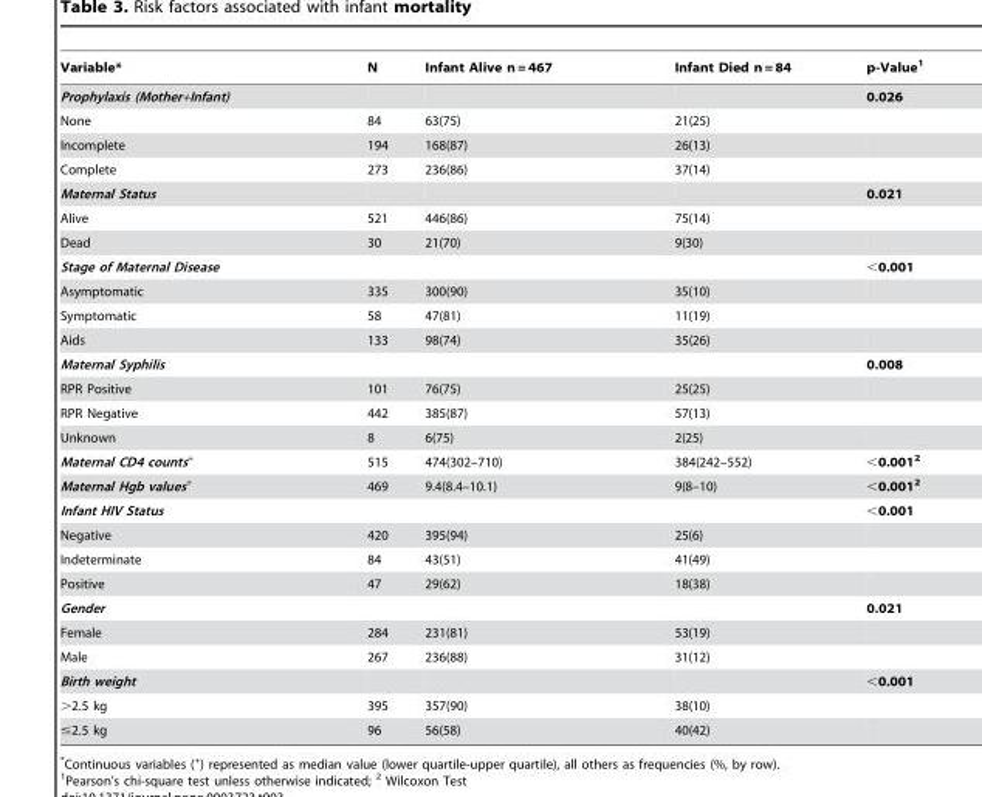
<table><thead><tr><td>Variable*</td><td>N</td><td>Infant Alive n = 467</td><td>Infant Died n = 84</td><td>p-Value<sup>1</sup></td></tr></thead><tbody><tr><td>Prophylaxis (Mother+Infant)</td><td></td><td></td><td></td><td>0.026</td></tr><tr><td>None</td><td>84</td><td>63(75)</td><td>21(25)</td><td></td></tr><tr><td>Incomplete</td><td>194</td><td>168(87)</td><td>26(13)</td><td></td></tr><tr><td>Complete</td><td>273</td><td>236(86)</td><td>37(14)</td><td></td></tr><tr><td>Maternal Status</td><td></td><td></td><td></td><td>0.021</td></tr><tr><td>Alive</td><td>521</td><td>446(86)</td><td>75(14)</td><td></td></tr><tr><td>Dead</td><td>30</td><td>21(70)</td><td>9(30)</td><td></td></tr><tr><td>Stage of Maternal Disease</td><td></td><td></td><td></td><td>&lt;0.001</td></tr><tr><td>Asymptomatic</td><td>335</td><td>300(90)</td><td>35(10)</td><td></td></tr><tr><td>Symptomatic</td><td>58</td><td>47(81)</td><td>11(19)</td><td></td></tr><tr><td>Aids</td><td>133</td><td>98(74)</td><td>35(26)</td><td></td></tr><tr><td>Maternal Syphilis</td><td></td><td></td><td></td><td>0.008</td></tr><tr><td>RPR Positive</td><td>101</td><td>76(75)</td><td>25(25)</td><td></td></tr><tr><td>RPR Negative</td><td>442</td><td>385(87)</td><td>57(13)</td><td></td></tr><tr><td>Unknown</td><td>8</td><td>6(75)</td><td>2(25)</td><td></td></tr><tr><td>Maternal CD4 counts<sup>+</sup></td><td>515</td><td>474(302–710)</td><td>384(242–552)</td><td>&lt;0.0012</td></tr><tr><td>Maternal Hgb values<sup>+</sup></td><td>469</td><td>9.4(8.4–10.1)</td><td>9(8–10)</td><td>&lt;0.0012</td></tr><tr><td>Infant HIV Status</td><td></td><td></td><td></td><td>&lt;0.001</td></tr><tr><td>Negative</td><td>420</td><td>395(94)</td><td>25(6)</td><td></td></tr><tr><td>Indeterminate</td><td>84</td><td>43(51)</td><td>41(49)</td><td></td></tr><tr><td>Positive</td><td>47</td><td>29(62)</td><td>18(38)</td><td></td></tr><tr><td>Gender</td><td></td><td></td><td></td><td>0.021</td></tr><tr><td>Female</td><td>284</td><td>231(81)</td><td>53(19)</td><td></td></tr><tr><td>Male</td><td>267</td><td>236(88)</td><td>31(12)</td><td></td></tr><tr><td>Birth weight</td><td></td><td></td><td></td><td>&lt;0.001</td></tr><tr><td>&gt;2.5 kg</td><td>395</td><td>357(90)</td><td>38(10)</td><td></td></tr><tr><td>≤2.5 kg</td><td>96</td><td>56(58)</td><td>40(42)</td><td></td></tr></tbody></table>